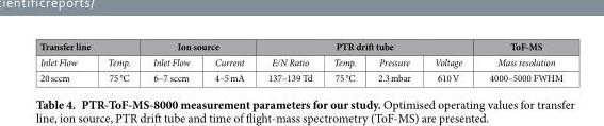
<table><thead><tr><td colspan="2">Transfer line</td><td colspan="2">Ion source</td><td colspan="4">PTR drift tube</td><td rowspan="2">ToF-MS Mass resolution</td></tr><tr><td>Inlet Flow</td><td>Temp.</td><td>Inlet Flow</td><td>Current</td><td>E/N Ratio</td><td>Temp.</td><td>Pressure</td><td>Voltage</td></tr></thead><tbody><tr><td>20 sccm</td><td>75 °C</td><td>6–7 sccm</td><td>4–5 mA</td><td>137–139 Td</td><td>75 °C</td><td>2.3 mbar</td><td>610 V</td><td>4000–5000 FWHM</td></tr></tbody></table>